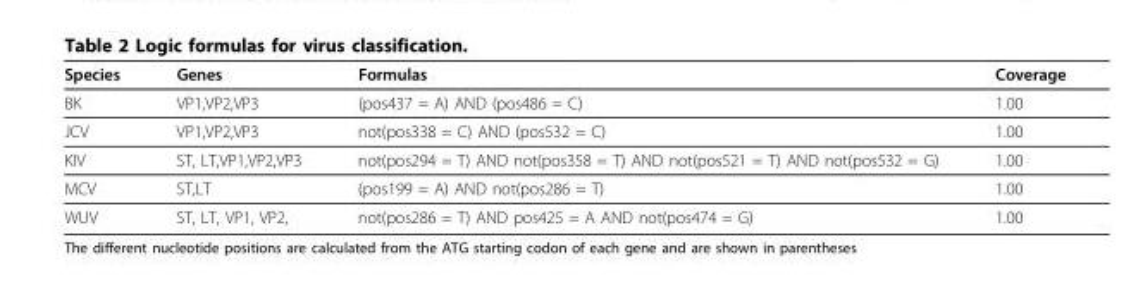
<table><thead><tr><td>Species</td><td>Genes</td><td>Formulas</td><td>Coverage</td></tr></thead><tbody><tr><td>BK</td><td>VP1,VP2,VP3</td><td>(pos437 = A) AND (pos486 = C)</td><td>1.00</td></tr><tr><td>JCV</td><td>VP1,VP2,VP3</td><td>not(pos338 = C) AND (pos532 = C)</td><td>1.00</td></tr><tr><td>KIV</td><td>ST, LT,VP1,VP2,VP3</td><td>not(pos294 = T) AND not(pos358 = T) AND not(pos521 = T) AND not(pos532 = G)</td><td>1.00</td></tr><tr><td>MCV</td><td>ST,LT</td><td>(pos199 = A) AND not(pos286 = T)</td><td>1.00</td></tr><tr><td>WUV</td><td>ST, LT, VP1, VP2,</td><td>not(pos286 = T) AND pos425 = A AND not(pos474 = G)</td><td>1.00</td></tr></tbody></table>